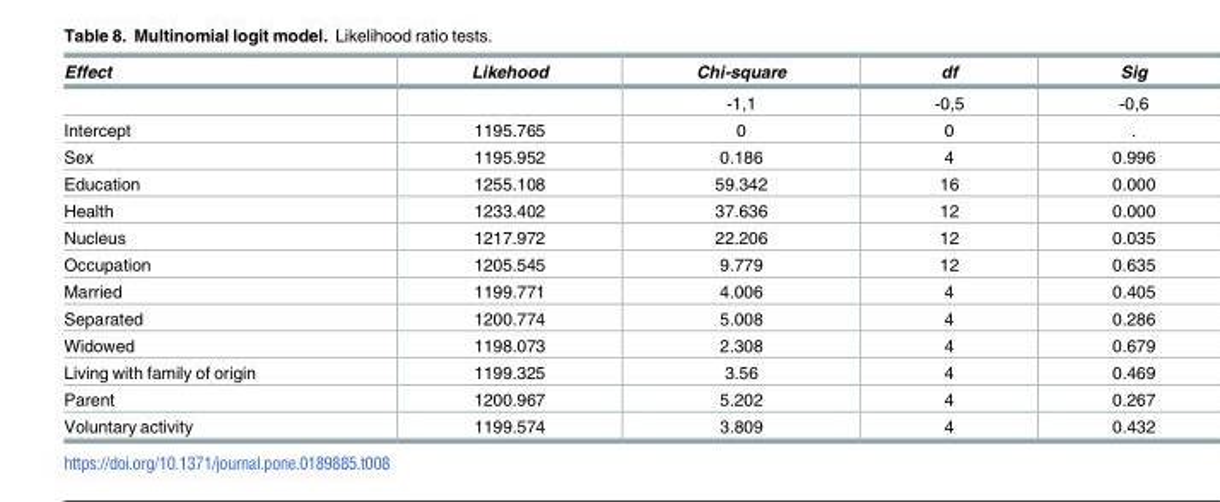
<table><thead><tr><td>Effect</td><td>Likehood</td><td>Chi-square</td><td>df</td><td>Sig</td></tr></thead><tbody><tr><td></td><td></td><td>-1,1</td><td>-0,5</td><td>-0,6</td></tr><tr><td>Intercept</td><td>1195.765</td><td>0</td><td>0</td><td>.</td></tr><tr><td>Sex</td><td>1195.952</td><td>0.186</td><td>4</td><td>0.996</td></tr><tr><td>Education</td><td>1255.108</td><td>59.342</td><td>16</td><td>0.000</td></tr><tr><td>Health</td><td>1233.402</td><td>37.636</td><td>12</td><td>0.000</td></tr><tr><td>Nucleus</td><td>1217.972</td><td>22.206</td><td>12</td><td>0.035</td></tr><tr><td>Occupation</td><td>1205.545</td><td>9.779</td><td>12</td><td>0.635</td></tr><tr><td>Married</td><td>1199.771</td><td>4.006</td><td>4</td><td>0.405</td></tr><tr><td>Separated</td><td>1200.774</td><td>5.008</td><td>4</td><td>0.286</td></tr><tr><td>Widowed</td><td>1198.073</td><td>2.308</td><td>4</td><td>0.679</td></tr><tr><td>Living with family of origin</td><td>1199.325</td><td>3.56</td><td>4</td><td>0.469</td></tr><tr><td>Parent</td><td>1200.967</td><td>5.202</td><td>4</td><td>0.267</td></tr><tr><td>Voluntary activity</td><td>1199.574</td><td>3.809</td><td>4</td><td>0.432</td></tr></tbody></table>